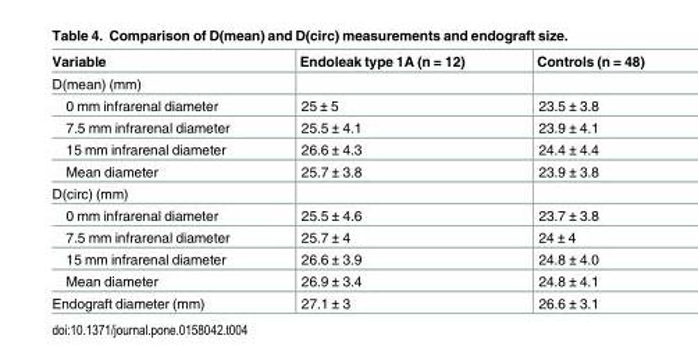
<table><thead><tr><td>Variable</td><td>Endoleak type 1A (n = 12)</td><td>Controls (n = 48)</td></tr></thead><tbody><tr><td colspan="3">D(mean) (mm)</td></tr><tr><td>0 mm infrarenal diameter</td><td>25 ± 5</td><td>23.5 ± 3.8</td></tr><tr><td>7.5 mm infrarenal diameter</td><td>25.5 ± 4.1</td><td>23.9 ± 4.1</td></tr><tr><td>15 mm infrarenal diameter</td><td>26.6 ± 4.3</td><td>24.4 ± 4.4</td></tr><tr><td>Mean diameter</td><td>25.7 ± 3.8</td><td>23.9 ± 3.8</td></tr><tr><td colspan="3">D(circ) (mm)</td></tr><tr><td>0 mm infrarenal diameter</td><td>25.5 ± 4.6</td><td>23.7 ± 3.8</td></tr><tr><td>7.5 mm infrarenal diameter</td><td>25.7 ± 4</td><td>24 ± 4</td></tr><tr><td>15 mm infrarenal diameter</td><td>26.6 ± 3.9</td><td>24.8 ± 4.0</td></tr><tr><td>Mean diameter</td><td>26.9 ± 3.4</td><td>24.8 ± 4.1</td></tr><tr><td>Endograft diameter (mm)</td><td>27.1 ± 3</td><td>26.6 ± 3.1</td></tr></tbody></table>